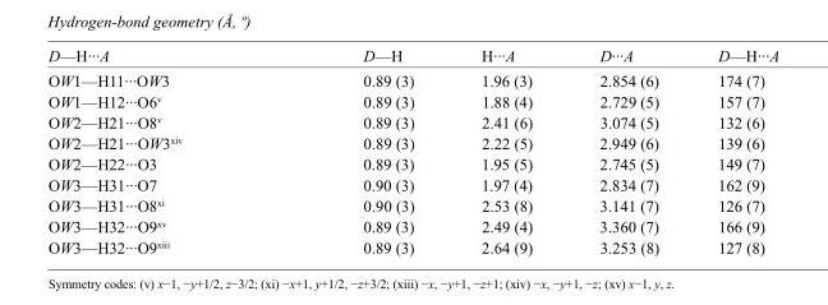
<table><tbody><tr><td>D—H···A</td><td>D—H</td><td>H···A</td><td>D···A</td><td>D—H···A</td></tr><tr><td>OW1—H11···OW3</td><td>0.89 (3)</td><td>1.96 (3)</td><td>2.854 (6)</td><td>174 (7)</td></tr><tr><td>OW1—H12···O6<sup>v</sup></td><td>0.89 (3)</td><td>1.88 (4)</td><td>2.729 (5)</td><td>157 (7)</td></tr><tr><td>OW2—H21···O8<sup>v</sup></td><td>0.89 (3)</td><td>2.41 (6)</td><td>3.074 (5)</td><td>132 (6)</td></tr><tr><td>OW2—H21···OW3<sup>xiv</sup></td><td>0.89 (3)</td><td>2.22 (5)</td><td>2.949 (6)</td><td>139 (6)</td></tr><tr><td>OW2—H22···O3</td><td>0.89 (3)</td><td>1.95 (5)</td><td>2.745 (5)</td><td>149 (7)</td></tr><tr><td>OW3—H31···O7</td><td>0.90 (3)</td><td>1.97 (4)</td><td>2.834 (7)</td><td>162 (9)</td></tr><tr><td>OW3—H31···O8<sup>xi</sup></td><td>0.90 (3)</td><td>2.53 (8)</td><td>3.141 (7)</td><td>126 (7)</td></tr><tr><td>OW3—H32···O9<sup>xv</sup></td><td>0.89 (3)</td><td>2.49 (4)</td><td>3.360 (7)</td><td>166 (9)</td></tr><tr><td>OW3—H32···O9<sup>xiii</sup></td><td>0.89 (3)</td><td>2.64 (9)</td><td>3.253 (8)</td><td>127 (8)</td></tr></tbody></table>